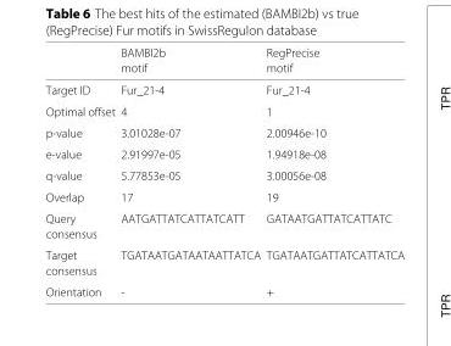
<table><thead><tr><td rowspan="2"></td><td rowspan="2">BAMBI2b motif</td><td rowspan="2">RegPrecise motif</td></tr><tr></tr></thead><tbody><tr><td>Target ID</td><td>Fur_21-4</td><td>Fur_21-4</td></tr><tr><td>Optimal offset</td><td>4</td><td>1</td></tr><tr><td>p-value</td><td>3.01028e-07</td><td>2.00946e-10</td></tr><tr><td>e-value</td><td>2.91997e-05</td><td>1.94918e-08</td></tr><tr><td>q-value</td><td>5.77853e-05</td><td>3.00056e-08</td></tr><tr><td>Overlap</td><td>17</td><td>19</td></tr><tr><td>Query</td><td>AATGATTATCATTATCATT</td><td>GATAATGATTATCATTATC</td></tr><tr><td colspan="3">consensus</td></tr><tr><td>Target</td><td>TGATAATGATAATAATTATCA</td><td>TGATAATGATTATCATTATCA</td></tr><tr><td colspan="3">consensus</td></tr><tr><td>Orientation</td><td>-</td><td>+</td></tr></tbody></table>